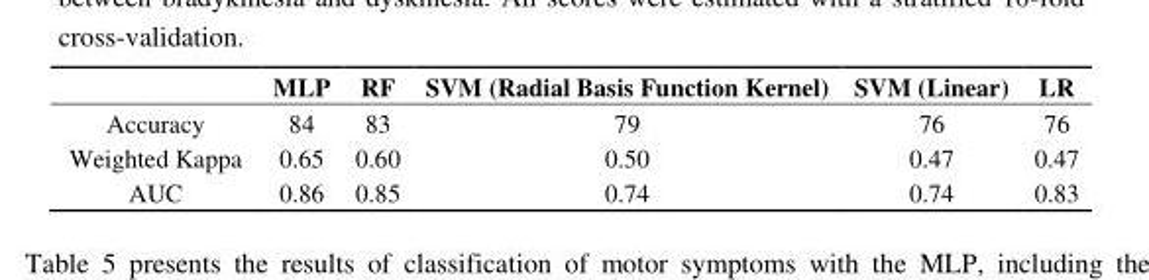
<table><thead><tr><td></td><td>MLP</td><td>RF</td><td>SVM (Radial Basis Function Kernel)</td><td>SVM (Linear)</td><td>LR</td></tr></thead><tbody><tr><td>Accuracy</td><td>84</td><td>83</td><td>79</td><td>76</td><td>76</td></tr><tr><td>Weighted Kappa</td><td>0.65</td><td>0.60</td><td>0.50</td><td>0.47</td><td>0.47</td></tr><tr><td>AUC</td><td>0.86</td><td>0.85</td><td>0.74</td><td>0.74</td><td>0.83</td></tr></tbody></table>